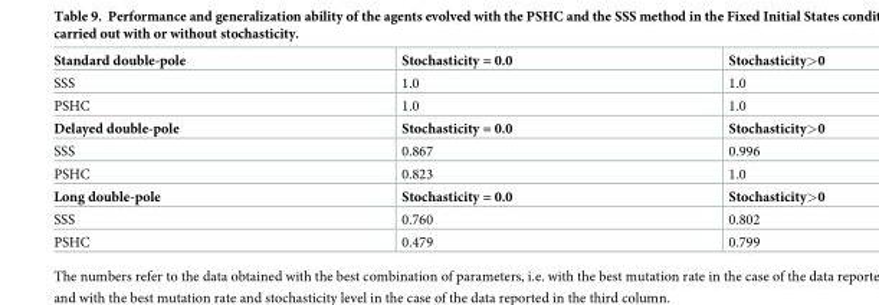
<table><tbody><tr><td>Standard double-pole</td><td>Stochasticity = 0.0</td><td>Stochasticity&gt;0</td></tr><tr><td>SSS</td><td>1.0</td><td>1.0</td></tr><tr><td>PSHC</td><td>1.0</td><td>1.0</td></tr><tr><td>Delayed double-pole</td><td>Stochasticity = 0.0</td><td>Stochasticity&gt;0</td></tr><tr><td>SSS</td><td>0.867</td><td>0.996</td></tr><tr><td>PSHC</td><td>0.823</td><td>1.0</td></tr><tr><td>Long double-pole</td><td>Stochasticity = 0.0</td><td>Stochasticity&gt;0</td></tr><tr><td>SSS</td><td>0.760</td><td>0.802</td></tr><tr><td>PSHC</td><td>0.479</td><td>0.799</td></tr></tbody></table>